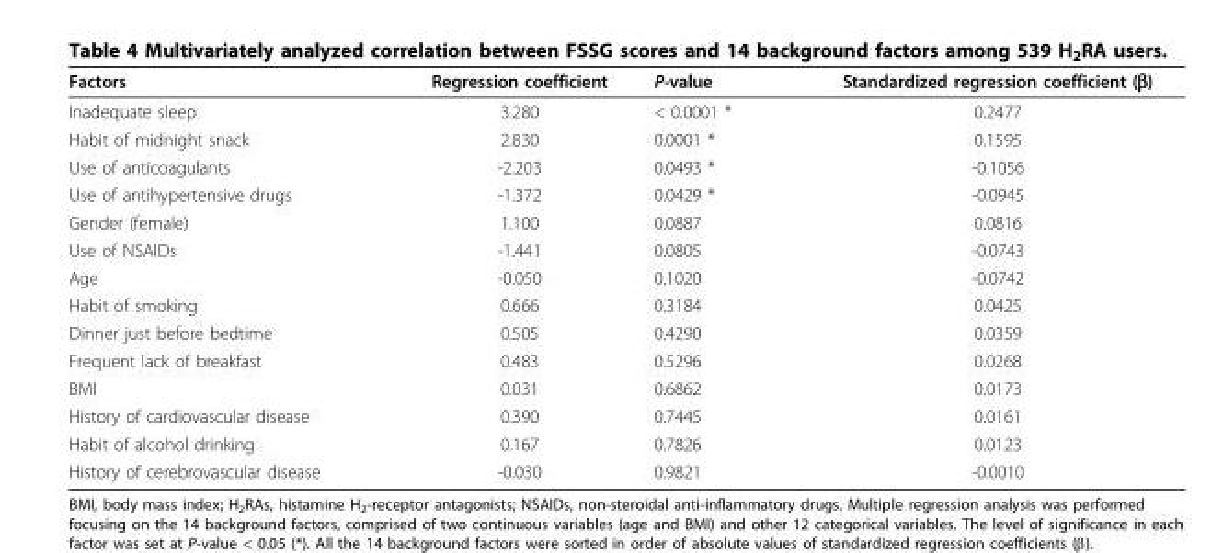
<table><thead><tr><td>Factors</td><td>Regression coefficient</td><td>P-value</td><td>Standardized regression coefficient (β)</td></tr></thead><tbody><tr><td>Inadequate sleep</td><td>3.280</td><td>&lt; 0.0001 *</td><td>0.2477</td></tr><tr><td>Habit of midnight snack</td><td>2.830</td><td>0.0001 *</td><td>0.1595</td></tr><tr><td>Use of anticoagulants</td><td>-2.203</td><td>0.0493 *</td><td>-0.1056</td></tr><tr><td>Use of antihypertensive drugs</td><td>-1.372</td><td>0.0429 *</td><td>-0.0945</td></tr><tr><td>Gender (female)</td><td>1.100</td><td>0.0887</td><td>0.0816</td></tr><tr><td>Use of NSAIDs</td><td>-1.441</td><td>0.0805</td><td>-0.0743</td></tr><tr><td>Age</td><td>-0.050</td><td>0.1020</td><td>-0.0742</td></tr><tr><td>Habit of smoking</td><td>0.666</td><td>0.3184</td><td>0.0425</td></tr><tr><td>Dinner just before bedtime</td><td>0.505</td><td>0.4290</td><td>0.0359</td></tr><tr><td>Frequent lack of breakfast</td><td>0.483</td><td>0.5296</td><td>0.0268</td></tr><tr><td>BMI</td><td>0.031</td><td>0.6862</td><td>0.0173</td></tr><tr><td>History of cardiovascular disease</td><td>0.390</td><td>0.7445</td><td>0.0161</td></tr><tr><td>Habit of alcohol drinking</td><td>0.167</td><td>0.7826</td><td>0.0123</td></tr><tr><td>History of cerebrovascular disease</td><td>-0.030</td><td>0.9821</td><td>-0.0010</td></tr></tbody></table>